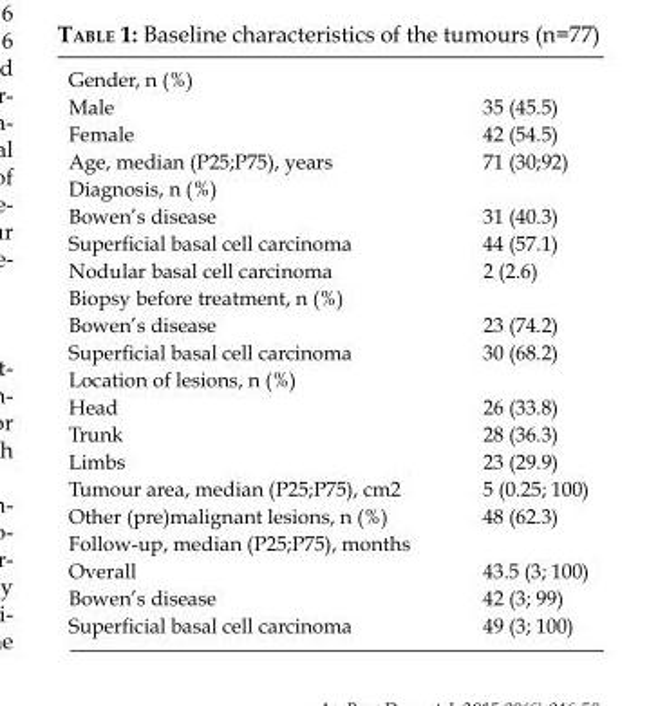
<table><tbody><tr><td colspan="2">Gender, n (%)</td></tr><tr><td>Male</td><td>35 (45.5)</td></tr><tr><td>Female</td><td>42 (54.5)</td></tr><tr><td>Age, median (P25;P75), years</td><td>71 (30;92)</td></tr><tr><td colspan="2">Diagnosis, n (%)</td></tr><tr><td>Bowen’s disease</td><td>31 (40.3)</td></tr><tr><td>Superficial basal cell carcinoma</td><td>44 (57.1)</td></tr><tr><td>Nodular basal cell carcinoma</td><td>2 (2.6)</td></tr><tr><td colspan="2">Biopsy before treatment, n (%)</td></tr><tr><td>Bowen’s disease</td><td>23 (74.2)</td></tr><tr><td>Superficial basal cell carcinoma</td><td>30 (68.2)</td></tr><tr><td colspan="2">Location of lesions, n (%)</td></tr><tr><td>Head</td><td>26 (33.8)</td></tr><tr><td>Trunk</td><td>28 (36.3)</td></tr><tr><td>Limbs</td><td>23 (29.9)</td></tr><tr><td>Tumour area, median (P25;P75), cm2</td><td>5 (0.25; 100)</td></tr><tr><td>Other (pre)malignant lesions, n (%)</td><td>48 (62.3)</td></tr><tr><td colspan="2">Follow-up, median (P25;P75), months</td></tr><tr><td>Overall</td><td>43.5 (3; 100)</td></tr><tr><td>Bowen’s disease</td><td>42 (3; 99)</td></tr><tr><td>Superficial basal cell carcinoma</td><td>49 (3; 100)</td></tr></tbody></table>